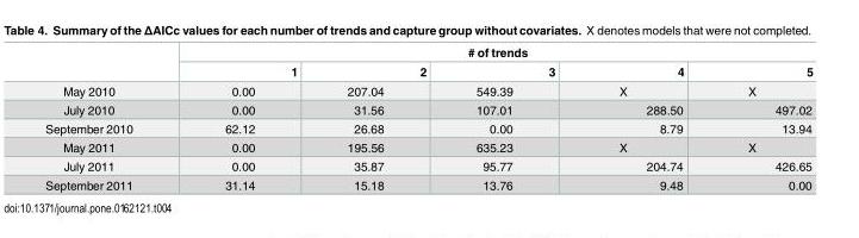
<table><thead><tr><td rowspan="2"></td><td colspan="5"># of trends</td></tr><tr><td>1</td><td>2</td><td>3</td><td>4</td><td>5</td></tr></thead><tbody><tr><td>May 2010</td><td>0.00</td><td>207.04</td><td>549.39</td><td>X</td><td>X</td></tr><tr><td>July 2010</td><td>0.00</td><td>31.56</td><td>107.01</td><td>288.50</td><td>497.02</td></tr><tr><td>September 2010</td><td>62.12</td><td>26.68</td><td>0.00</td><td>8.79</td><td>13.94</td></tr><tr><td>May 2011</td><td>0.00</td><td>195.56</td><td>635.23</td><td>X</td><td>X</td></tr><tr><td>July 2011</td><td>0.00</td><td>35.87</td><td>95.77</td><td>204.74</td><td>426.65</td></tr><tr><td>September 2011</td><td>31.14</td><td>15.18</td><td>13.76</td><td>9.48</td><td>0.00</td></tr></tbody></table>